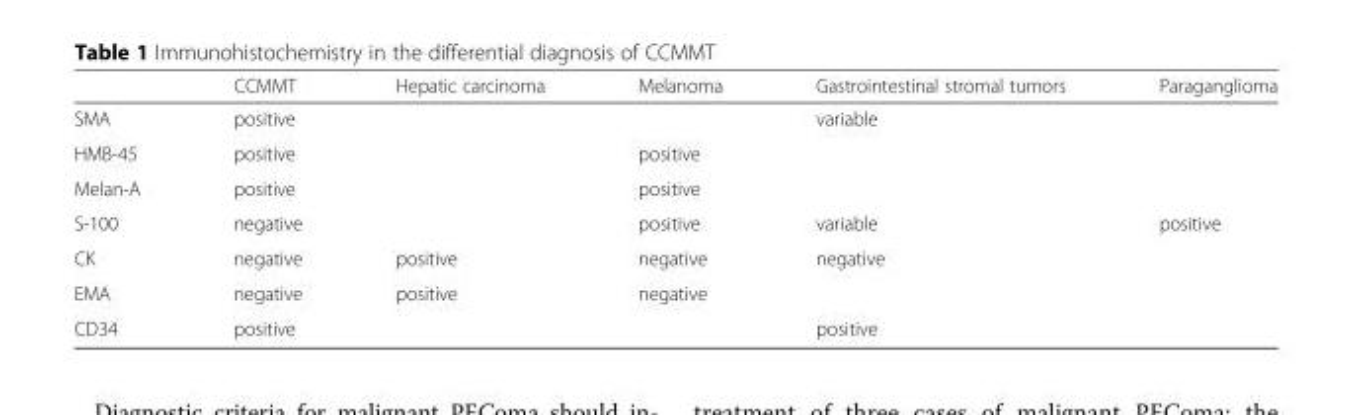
<table><thead><tr><td></td><td>CCMMT</td><td>Hepatic carcinoma</td><td>Melanoma</td><td>Gastrointestinal stromal tumors</td><td>Paraganglioma</td></tr></thead><tbody><tr><td>SMA</td><td>positive</td><td></td><td></td><td>variable</td><td></td></tr><tr><td>HMB-45</td><td>positive</td><td></td><td>positive</td><td></td><td></td></tr><tr><td>Melan-A</td><td>positive</td><td></td><td>positive</td><td></td><td></td></tr><tr><td>S-100</td><td>negative</td><td></td><td>positive</td><td>variable</td><td>positive</td></tr><tr><td>CK</td><td>negative</td><td>positive</td><td>negative</td><td>negative</td><td></td></tr><tr><td>EMA</td><td>negative</td><td>positive</td><td>negative</td><td></td><td></td></tr><tr><td>CD34</td><td>positive</td><td></td><td></td><td>positive</td><td></td></tr></tbody></table>